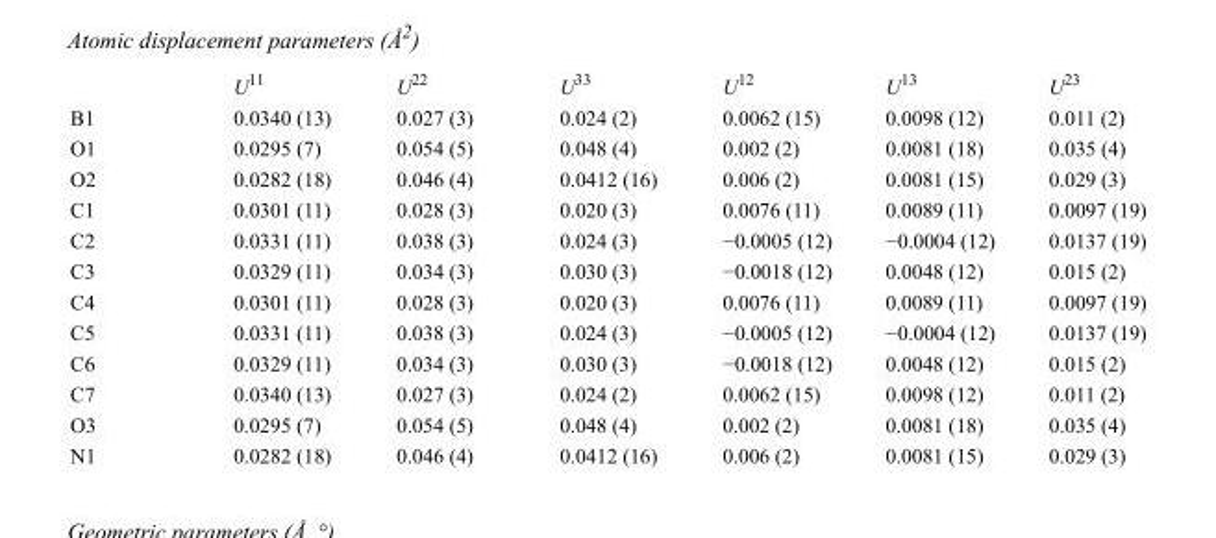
<table><thead><tr><td></td><td>U<sup>11</sup></td><td>U<sup>22</sup></td><td>U<sup>33</sup></td><td>U<sup>12</sup></td><td>U<sup>13</sup></td><td>U<sup>23</sup></td></tr></thead><tbody><tr><td>B1</td><td>0.0340 (13)</td><td>0.027 (3)</td><td>0.024 (2)</td><td>0.0062 (15)</td><td>0.0098 (12)</td><td>0.011 (2)</td></tr><tr><td>O1</td><td>0.0295 (7)</td><td>0.054 (5)</td><td>0.048 (4)</td><td>0.002 (2)</td><td>0.0081 (18)</td><td>0.035 (4)</td></tr><tr><td>O2</td><td>0.0282 (18)</td><td>0.046 (4)</td><td>0.0412 (16)</td><td>0.006 (2)</td><td>0.0081 (15)</td><td>0.029 (3)</td></tr><tr><td>C1</td><td>0.0301 (11)</td><td>0.028 (3)</td><td>0.020 (3)</td><td>0.0076 (11)</td><td>0.0089 (11)</td><td>0.0097 (19)</td></tr><tr><td>C2</td><td>0.0331 (11)</td><td>0.038 (3)</td><td>0.024 (3)</td><td>−0.0005 (12)</td><td>−0.0004 (12)</td><td>0.0137 (19)</td></tr><tr><td>C3</td><td>0.0329 (11)</td><td>0.034 (3)</td><td>0.030 (3)</td><td>−0.0018 (12)</td><td>0.0048 (12)</td><td>0.015 (2)</td></tr><tr><td>C4</td><td>0.0301 (11)</td><td>0.028 (3)</td><td>0.020 (3)</td><td>0.0076 (11)</td><td>0.0089 (11)</td><td>0.0097 (19)</td></tr><tr><td>C5</td><td>0.0331 (11)</td><td>0.038 (3)</td><td>0.024 (3)</td><td>−0.0005 (12)</td><td>−0.0004 (12)</td><td>0.0137 (19)</td></tr><tr><td>C6</td><td>0.0329 (11)</td><td>0.034 (3)</td><td>0.030 (3)</td><td>−0.0018 (12)</td><td>0.0048 (12)</td><td>0.015 (2)</td></tr><tr><td>C7</td><td>0.0340 (13)</td><td>0.027 (3)</td><td>0.024 (2)</td><td>0.0062 (15)</td><td>0.0098 (12)</td><td>0.011 (2)</td></tr><tr><td>O3</td><td>0.0295 (7)</td><td>0.054 (5)</td><td>0.048 (4)</td><td>0.002 (2)</td><td>0.0081 (18)</td><td>0.035 (4)</td></tr><tr><td>N1</td><td>0.0282 (18)</td><td>0.046 (4)</td><td>0.0412 (16)</td><td>0.006 (2)</td><td>0.0081 (15)</td><td>0.029 (3)</td></tr></tbody></table>